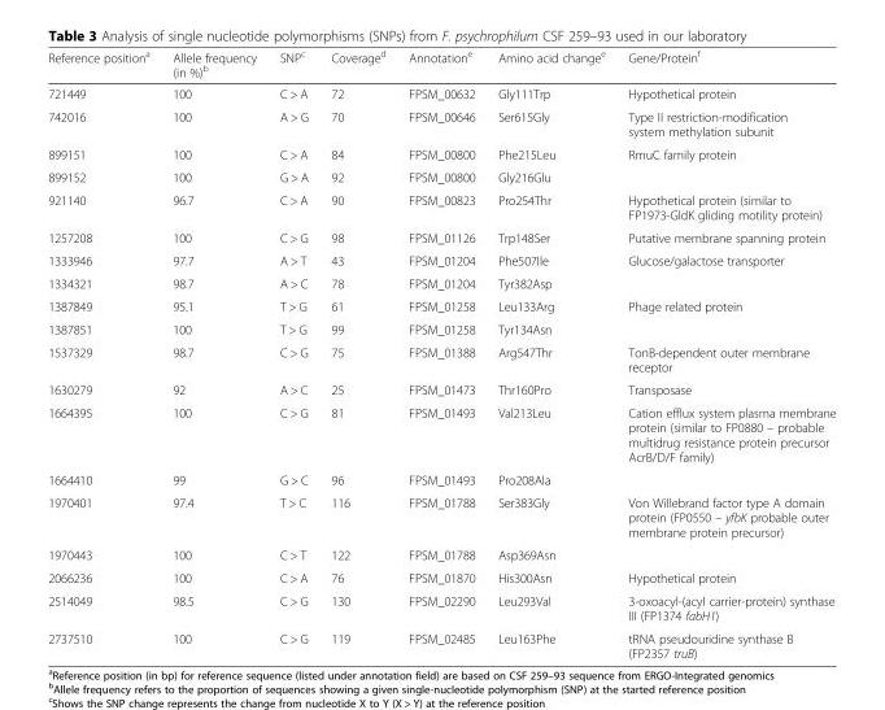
<table><thead><tr><td>Reference position<sup>a</sup></td><td>Allele frequency (in %)<sup>b</sup></td><td>SNP<sup>c</sup></td><td>Coverage<sup>d</sup></td><td>Annotation<sup>e</sup></td><td>Amino acid change<sup>e</sup></td><td>Gene/Protein<sup>f</sup></td></tr></thead><tbody><tr><td>721449</td><td>100</td><td>C &gt; A</td><td>72</td><td>FPSM_00632</td><td>Gly111Trp</td><td>Hypothetical protein</td></tr><tr><td>742016</td><td>100</td><td>A &gt; G</td><td>70</td><td>FPSM_00646</td><td>Ser615Gly</td><td>Type II restriction-modification system methylation subunit</td></tr><tr><td>899151</td><td>100</td><td>C &gt; A</td><td>84</td><td>FPSM_00800</td><td>Phe215Leu</td><td>RmuC family protein</td></tr><tr><td>899152</td><td>100</td><td>G &gt; A</td><td>92</td><td>FPSM_00800</td><td>Gly216Glu</td><td></td></tr><tr><td>921140</td><td>96.7</td><td>C &gt; A</td><td>90</td><td>FPSM_00823</td><td>Pro254Thr</td><td>Hypothetical protein (similar to FP1973-GldK gliding motility protein)</td></tr><tr><td>1257208</td><td>100</td><td>C &gt; G</td><td>98</td><td>FPSM_01126</td><td>Trp148Ser</td><td>Putative membrane spanning protein</td></tr><tr><td>1333946</td><td>97.7</td><td>A &gt; T</td><td>43</td><td>FPSM_01204</td><td>Phe507Ile</td><td>Glucose/galactose transporter</td></tr><tr><td>1334321</td><td>98.7</td><td>A &gt; C</td><td>78</td><td>FPSM_01204</td><td>Tyr382Asp</td><td></td></tr><tr><td>1387849</td><td>95.1</td><td>T &gt; G</td><td>61</td><td>FPSM_01258</td><td>Leu133Arg</td><td>Phage related protein</td></tr><tr><td>1387851</td><td>100</td><td>T &gt; G</td><td>99</td><td>FPSM_01258</td><td>Tyr134Asn</td><td></td></tr><tr><td>1537329</td><td>98.7</td><td>C &gt; G</td><td>75</td><td>FPSM_01388</td><td>Arg547Thr</td><td>TonB-dependent outer membrane receptor</td></tr><tr><td>1630279</td><td>92</td><td>A &gt; C</td><td>25</td><td>FPSM_01473</td><td>Thr160Pro</td><td>Transposase</td></tr><tr><td>1664395</td><td>100</td><td>C &gt; G</td><td>81</td><td>FPSM_01493</td><td>Val213Leu</td><td>Cation efflux system plasma membrane protein (similar to FP0880 – probable multidrug resistance protein precursor AcrB/D/F family)</td></tr><tr><td>1664410</td><td>99</td><td>G &gt; C</td><td>96</td><td>FPSM_01493</td><td>Pro208Ala</td><td></td></tr><tr><td>1970401</td><td>97.4</td><td>T &gt; C</td><td>116</td><td>FPSM_01788</td><td>Ser383Gly</td><td>Von Willebrand factor type A domain protein (FP0550 – yfbK probable outer membrane protein precursor)</td></tr><tr><td>1970443</td><td>100</td><td>C &gt; T</td><td>122</td><td>FPSM_01788</td><td>Asp369Asn</td><td></td></tr><tr><td>2066236</td><td>100</td><td>C &gt; A</td><td>76</td><td>FPSM_01870</td><td>His300Asn</td><td>Hypothetical protein</td></tr><tr><td>2514049</td><td>98.5</td><td>C &gt; G</td><td>130</td><td>FPSM_02290</td><td>Leu293Val</td><td>3-oxoacyl-(acyl carrier-protein) synthase III (FP1374 fabH1)</td></tr><tr><td>2737510</td><td>100</td><td>C &gt; G</td><td>119</td><td>FPSM_02485</td><td>Leu163Phe</td><td>tRNA pseudouridine synthase B (FP2357 truB)</td></tr></tbody></table>